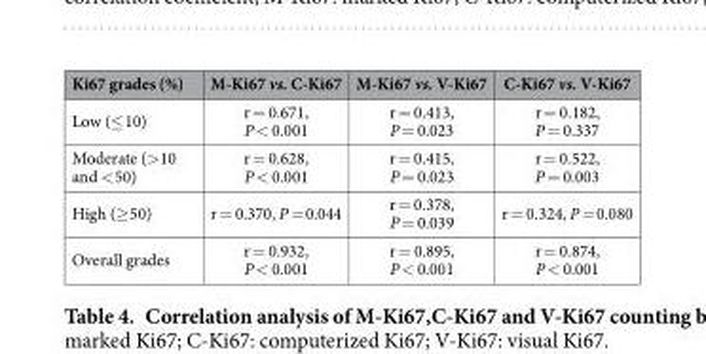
<table><thead><tr><td>Ki67 grades (%)</td><td>M-Ki67 vs. C-Ki67</td><td>M-Ki67 vs. V-Ki67</td><td>C-Ki67 vs. V-Ki67</td></tr></thead><tbody><tr><td>Low (≤ 10)</td><td>r = 0.671, P &lt; 0.001</td><td>r = 0.413, P = 0.023</td><td>r = 0.182, P = 0.337</td></tr><tr><td>Moderate (&gt;10 and &lt; 50)</td><td>r = 0.628, P &lt; 0.001</td><td>r = 0.415, P = 0.023</td><td>r = 0.522, P = 0.003</td></tr><tr><td>High (≥ 50)</td><td>r = 0.370, P = 0.044</td><td>r = 0.378, P = 0.039</td><td>r = 0.324, P = 0.080</td></tr><tr><td>Overall grades</td><td>r = 0.932, P &lt; 0.001</td><td>r = 0.895, P &lt; 0.001</td><td>r = 0.874, P &lt; 0.001</td></tr></tbody></table>